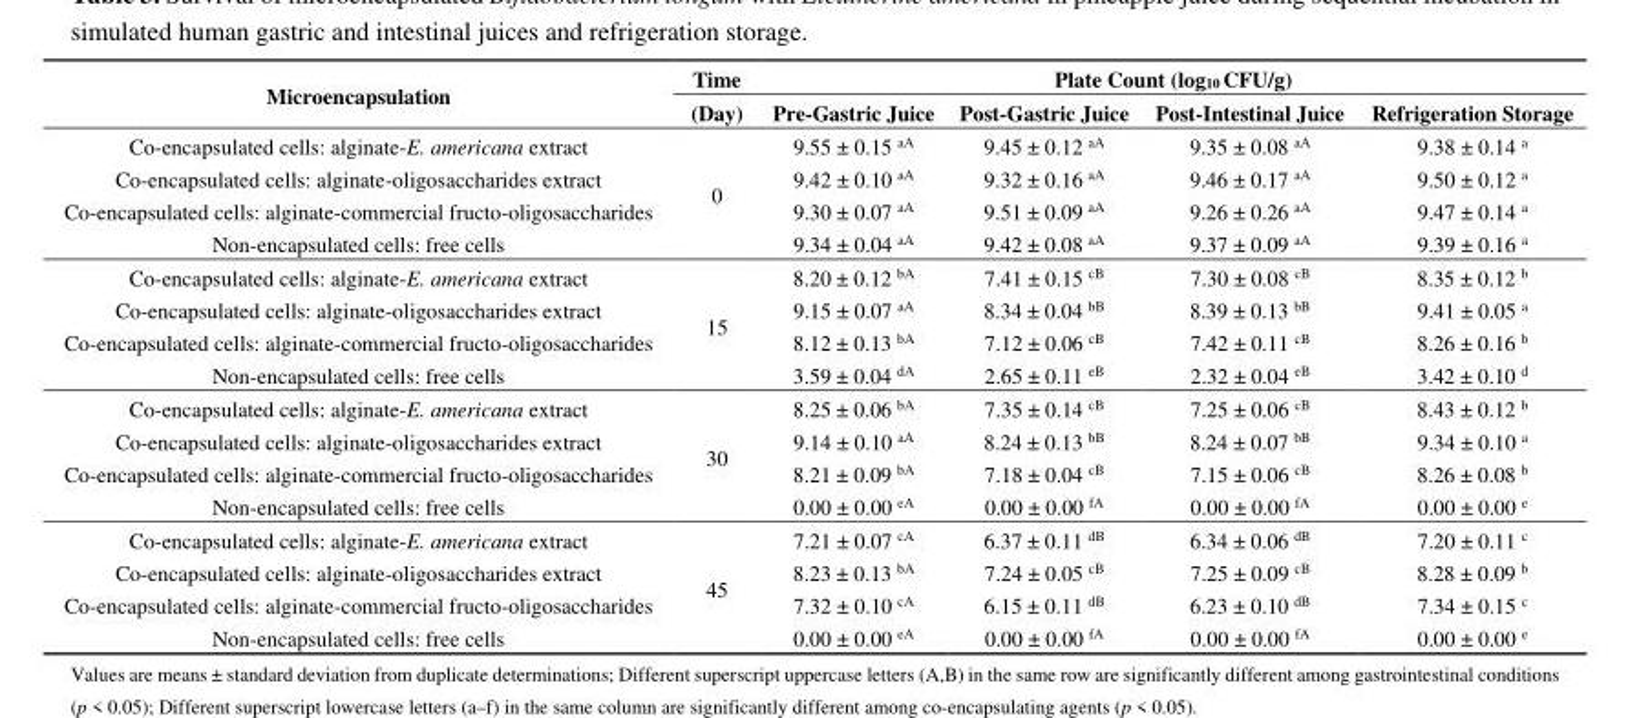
<table><thead><tr><td rowspan="2">Microencapsulation</td><td rowspan="2">Time (Day)</td><td colspan="4">Plate Count (log<sub>10</sub> CFU/g)</td></tr><tr><td>Pre-Gastric Juice</td><td>Post-Gastric Juice</td><td>Post-Intestinal Juice</td><td>Refrigeration Storage</td></tr></thead><tbody><tr><td>Co-encapsulated cells: alginate-E. americana extract</td><td rowspan="4">0</td><td>9.55 ± 0.15 <sup>aA</sup></td><td>9.45 ± 0.12 <sup>aA</sup></td><td>9.35 ± 0.08 <sup>aA</sup></td><td>9.38 ± 0.14 <sup>a</sup></td></tr><tr><td>Co-encapsulated cells: alginate-oligosaccharides extract</td><td>9.42 ± 0.10 <sup>aA</sup></td><td>9.32 ± 0.16 <sup>aA</sup></td><td>9.46 ± 0.17 <sup>aA</sup></td><td>9.50 ± 0.12 <sup>a</sup></td></tr><tr><td>Co-encapsulated cells: alginate-commercial fructo-oligosaccharides</td><td>9.30 ± 0.07 <sup>aA</sup></td><td>9.51 ± 0.09 <sup>aA</sup></td><td>9.26 ± 0.26 <sup>aA</sup></td><td>9.47 ± 0.14 <sup>a</sup></td></tr><tr><td>Non-encapsulated cells: free cells</td><td>9.34 ± 0.04 <sup>aA</sup></td><td>9.42 ± 0.08 <sup>aA</sup></td><td>9.37 ± 0.09 <sup>aA</sup></td><td>9.39 ± 0.16 <sup>a</sup></td></tr><tr><td>Co-encapsulated cells: alginate-E. americana extract</td><td rowspan="4">15</td><td>8.20 ± 0.12 <sup>bA</sup></td><td>7.41 ± 0.15 <sup>cB</sup></td><td>7.30 ± 0.08 <sup>cB</sup></td><td>8.35 ± 0.12 <sup>b</sup></td></tr><tr><td>Co-encapsulated cells: alginate-oligosaccharides extract</td><td>9.15 ± 0.07 <sup>aA</sup></td><td>8.34 ± 0.04 <sup>bB</sup></td><td>8.39 ± 0.13 <sup>bB</sup></td><td>9.41 ± 0.05 <sup>a</sup></td></tr><tr><td>Co-encapsulated cells: alginate-commercial fructo-oligosaccharides</td><td>8.12 ± 0.13 <sup>bA</sup></td><td>7.12 ± 0.06 <sup>cB</sup></td><td>7.42 ± 0.11 <sup>cB</sup></td><td>8.26 ± 0.16 <sup>b</sup></td></tr><tr><td>Non-encapsulated cells: free cells</td><td>3.59 ± 0.04 <sup>dA</sup></td><td>2.65 ± 0.11 <sup>eB</sup></td><td>2.32 ± 0.04 <sup>eB</sup></td><td>3.42 ± 0.10 <sup>d</sup></td></tr><tr><td>Co-encapsulated cells: alginate-E. americana extract</td><td rowspan="4">30</td><td>8.25 ± 0.06 <sup>bA</sup></td><td>7.35 ± 0.14 <sup>cB</sup></td><td>7.25 ± 0.06 <sup>cB</sup></td><td>8.43 ± 0.12 <sup>b</sup></td></tr><tr><td>Co-encapsulated cells: alginate-oligosaccharides extract</td><td>9.14 ± 0.10 <sup>aA</sup></td><td>8.24 ± 0.13 <sup>bB</sup></td><td>8.24 ± 0.07 <sup>bB</sup></td><td>9.34 ± 0.10 <sup>a</sup></td></tr><tr><td>Co-encapsulated cells: alginate-commercial fructo-oligosaccharides</td><td>8.21 ± 0.09 <sup>bA</sup></td><td>7.18 ± 0.04 <sup>cB</sup></td><td>7.15 ± 0.06 <sup>cB</sup></td><td>8.26 ± 0.08 <sup>b</sup></td></tr><tr><td>Non-encapsulated cells: free cells</td><td>0.00 ± 0.00 <sup>eA</sup></td><td>0.00 ± 0.00 <sup>fA</sup></td><td>0.00 ± 0.00 <sup>fA</sup></td><td>0.00 ± 0.00 <sup>e</sup></td></tr><tr><td>Co-encapsulated cells: alginate-E. americana extract</td><td rowspan="4">45</td><td>7.21 ± 0.07 <sup>cA</sup></td><td>6.37 ± 0.11 <sup>dB</sup></td><td>6.34 ± 0.06 <sup>dB</sup></td><td>7.20 ± 0.11 <sup>c</sup></td></tr><tr><td>Co-encapsulated cells: alginate-oligosaccharides extract</td><td>8.23 ± 0.13 <sup>bA</sup></td><td>7.24 ± 0.05 <sup>cB</sup></td><td>7.25 ± 0.09 <sup>cB</sup></td><td>8.28 ± 0.09 <sup>b</sup></td></tr><tr><td>Co-encapsulated cells: alginate-commercial fructo-oligosaccharides</td><td>7.32 ± 0.10 <sup>cA</sup></td><td>6.15 ± 0.11 <sup>dB</sup></td><td>6.23 ± 0.10 <sup>dB</sup></td><td>7.34 ± 0.15 <sup>c</sup></td></tr><tr><td>Non-encapsulated cells: free cells</td><td>0.00 ± 0.00 <sup>eA</sup></td><td>0.00 ± 0.00 <sup>fA</sup></td><td>0.00 ± 0.00 <sup>fA</sup></td><td>0.00 ± 0.00 <sup>e</sup></td></tr></tbody></table>